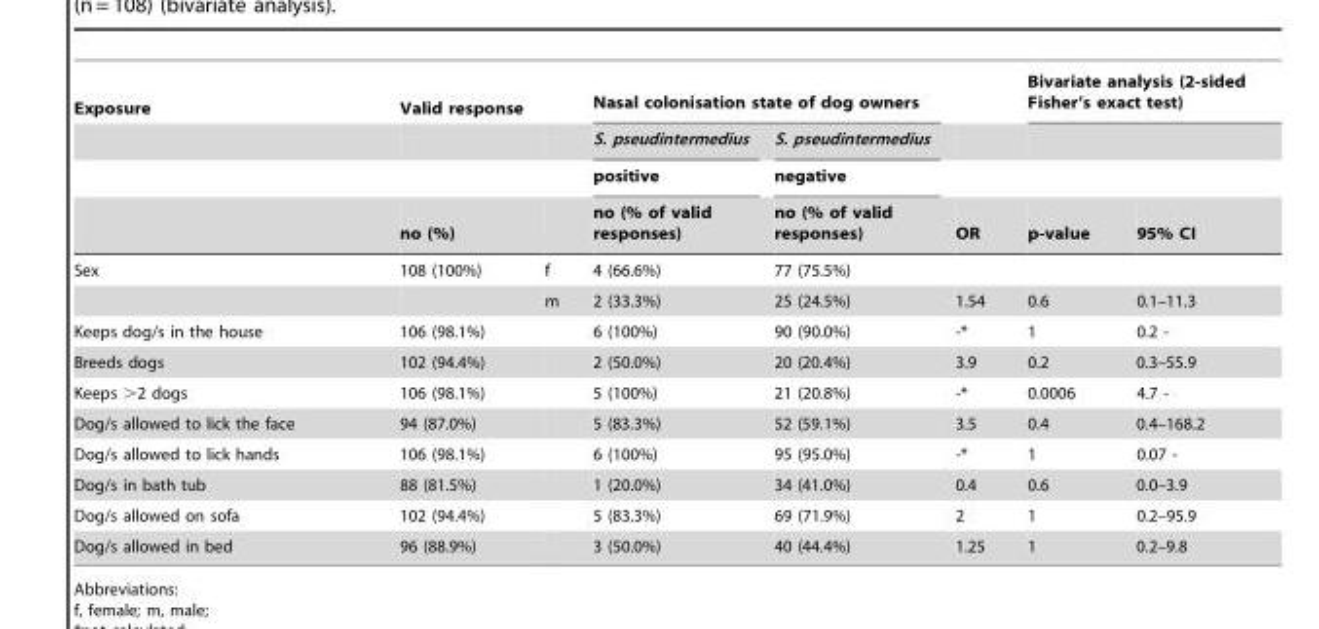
<table><thead><tr><td rowspan="4">Exposure</td><td rowspan="4">Valid response no (%)</td><td rowspan="4"></td><td colspan="2">Nasal colonisation state of dog owners</td><td rowspan="4">OR</td><td colspan="2">Bivariate analysis (2-sided Fisher’s exact test)</td></tr><tr><td rowspan="3">S. pseudintermedius positive no (% of valid responses)</td><td rowspan="3">S. pseudintermedius negative no (% of valid responses)</td><td rowspan="3">p-value</td><td rowspan="3">95% CI</td></tr><tr></tr><tr></tr></thead><tbody><tr><td rowspan="2">Sex</td><td>108 (100%)</td><td>f</td><td>4 (66.6%)</td><td>77 (75.5%)</td><td></td><td></td><td></td></tr><tr><td></td><td>m</td><td>2 (33.3%)</td><td>25 (24.5%)</td><td>1.54</td><td>0.6</td><td>0.1–11.3</td></tr><tr><td>Keeps dog/s in the house</td><td>106 (98.1%)</td><td></td><td>6 (100%)</td><td>90 (90.0%)</td><td>-*</td><td>1</td><td>0.2 -</td></tr><tr><td>Breeds dogs</td><td>102 (94.4%)</td><td></td><td>2 (50.0%)</td><td>20 (20.4%)</td><td>3.9</td><td>0.2</td><td>0.3–55.9</td></tr><tr><td>Keeps &gt;2 dogs</td><td>106 (98.1%)</td><td></td><td>5 (100%)</td><td>21 (20.8%)</td><td>-*</td><td>0.0006</td><td>4.7 -</td></tr><tr><td>Dog/s allowed to lick the face</td><td>94 (87.0%)</td><td></td><td>5 (83.3%)</td><td>52 (59.1%)</td><td>3.5</td><td>0.4</td><td>0.4–168.2</td></tr><tr><td>Dog/s allowed to lick hands</td><td>106 (98.1%)</td><td></td><td>6 (100%)</td><td>95 (95.0%)</td><td>-*</td><td>1</td><td>0.07 -</td></tr><tr><td>Dog/s in bath tub</td><td>88 (81.5%)</td><td></td><td>1 (20.0%)</td><td>34 (41.0%)</td><td>0.4</td><td>0.6</td><td>0.0–3.9</td></tr><tr><td>Dog/s allowed on sofa</td><td>102 (94.4%)</td><td></td><td>5 (83.3%)</td><td>69 (71.9%)</td><td>2</td><td>1</td><td>0.2–95.9</td></tr><tr><td>Dog/s allowed in bed</td><td>96 (88.9%)</td><td></td><td>3 (50.0%)</td><td>40 (44.4%)</td><td>1.25</td><td>1</td><td>0.2–9.8</td></tr></tbody></table>